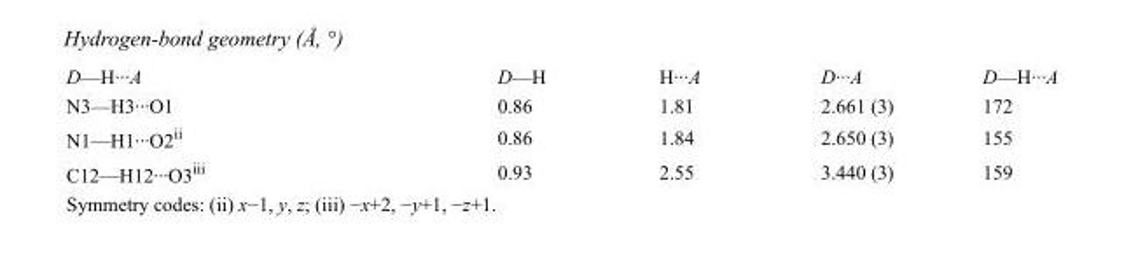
<table><tbody><tr><td>D—H···A</td><td>D—H</td><td>H···A</td><td>D···A</td><td>D—H···A</td></tr><tr><td>N3—H3···O1</td><td>0.86</td><td>1.81</td><td>2.661 (3)</td><td>172</td></tr><tr><td>N1—H1···O2<sup>ii</sup></td><td>0.86</td><td>1.84</td><td>2.650 (3)</td><td>155</td></tr><tr><td>C12—H12···O3<sup>iii</sup></td><td>0.93</td><td>2.55</td><td>3.440 (3)</td><td>159</td></tr></tbody></table>